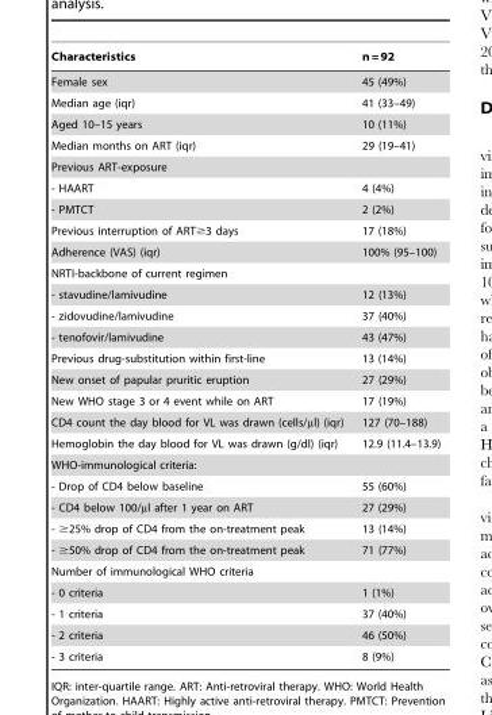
<table><thead><tr><td>Characteristics</td><td>n = 92</td></tr></thead><tbody><tr><td>Female sex</td><td>45 (49%)</td></tr><tr><td>Median age (iqr)</td><td>41 (33–49)</td></tr><tr><td>Aged 10–15 years</td><td>10 (11%)</td></tr><tr><td>Median months on ART (iqr)</td><td>29 (19–41)</td></tr><tr><td colspan="2">Previous ART-exposure</td></tr><tr><td>- HAART</td><td>4 (4%)</td></tr><tr><td>- PMTCT</td><td>2 (2%)</td></tr><tr><td>Previous interruption of ART≥3 days</td><td>17 (18%)</td></tr><tr><td>Adherence (VAS) (iqr)</td><td>100% (95–100)</td></tr><tr><td colspan="2">NRTI-backbone of current regimen</td></tr><tr><td>- stavudine/lamivudine</td><td>12 (13%)</td></tr><tr><td>- zidovudine/lamivudine</td><td>37 (40%)</td></tr><tr><td>- tenofovir/lamivudine</td><td>43 (47%)</td></tr><tr><td>Previous drug-substitution within first-line</td><td>13 (14%)</td></tr><tr><td>New onset of papular pruritic eruption</td><td>27 (29%)</td></tr><tr><td>New WHO stage 3 or 4 event while on ART</td><td>17 (19%)</td></tr><tr><td>CD4 count the day blood for VL was drawn (cells/µl) (iqr)</td><td>127 (70–188)</td></tr><tr><td>Hemoglobin the day blood for VL was drawn (g/dl) (iqr)</td><td>12.9 (11.4–13.9)</td></tr><tr><td colspan="2">WHO-immunological criteria:</td></tr><tr><td>- Drop of CD4 below baseline</td><td>55 (60%)</td></tr><tr><td>- CD4 below 100/µl after 1 year on ART</td><td>27 (29%)</td></tr><tr><td>- ≥25% drop of CD4 from the on-treatment peak</td><td>13 (14%)</td></tr><tr><td>- ≥50% drop of CD4 from the on-treatment peak</td><td>71 (77%)</td></tr><tr><td colspan="2">Number of immunological WHO criteria</td></tr><tr><td>- 0 criteria</td><td>1 (1%)</td></tr><tr><td>- 1 criteria</td><td>37 (40%)</td></tr><tr><td>- 2 criteria</td><td>46 (50%)</td></tr><tr><td>- 3 criteria</td><td>8 (9%)</td></tr></tbody></table>